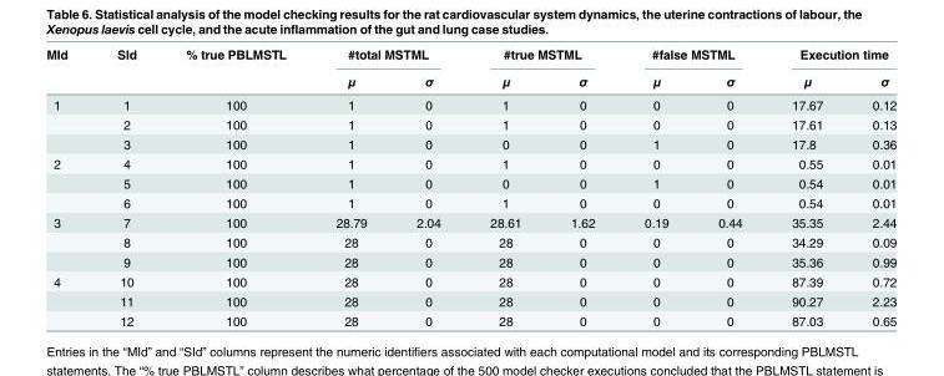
<table><thead><tr><td rowspan="2">MId</td><td rowspan="2">SId</td><td rowspan="2">% true PBLMSTL</td><td colspan="2">#total MSTML</td><td colspan="2">#true MSTML</td><td colspan="2">#false MSTML</td><td colspan="2">Execution time</td></tr><tr><td>μ</td><td>σ</td><td>μ</td><td>σ</td><td>μ</td><td>σ</td><td>μ</td><td>σ</td></tr></thead><tbody><tr><td rowspan="3">1</td><td>1</td><td>100</td><td>1</td><td>0</td><td>1</td><td>0</td><td>0</td><td>0</td><td>17.67</td><td>0.12</td></tr><tr><td>2</td><td>100</td><td>1</td><td>0</td><td>1</td><td>0</td><td>0</td><td>0</td><td>17.61</td><td>0.13</td></tr><tr><td>3</td><td>100</td><td>1</td><td>0</td><td>0</td><td>0</td><td>1</td><td>0</td><td>17.8</td><td>0.36</td></tr><tr><td rowspan="3">2</td><td>4</td><td>100</td><td>1</td><td>0</td><td>1</td><td>0</td><td>0</td><td>0</td><td>0.55</td><td>0.01</td></tr><tr><td>5</td><td>100</td><td>1</td><td>0</td><td>0</td><td>0</td><td>1</td><td>0</td><td>0.54</td><td>0.01</td></tr><tr><td>6</td><td>100</td><td>1</td><td>0</td><td>1</td><td>0</td><td>0</td><td>0</td><td>0.54</td><td>0.01</td></tr><tr><td rowspan="3">3</td><td>7</td><td>100</td><td>28.79</td><td>2.04</td><td>28.61</td><td>1.62</td><td>0.19</td><td>0.44</td><td>35.35</td><td>2.44</td></tr><tr><td>8</td><td>100</td><td>28</td><td>0</td><td>28</td><td>0</td><td>0</td><td>0</td><td>34.29</td><td>0.09</td></tr><tr><td>9</td><td>100</td><td>28</td><td>0</td><td>28</td><td>0</td><td>0</td><td>0</td><td>35.36</td><td>0.99</td></tr><tr><td rowspan="3">4</td><td>10</td><td>100</td><td>28</td><td>0</td><td>28</td><td>0</td><td>0</td><td>0</td><td>87.39</td><td>0.72</td></tr><tr><td>11</td><td>100</td><td>28</td><td>0</td><td>28</td><td>0</td><td>0</td><td>0</td><td>90.27</td><td>2.23</td></tr><tr><td>12</td><td>100</td><td>28</td><td>0</td><td>28</td><td>0</td><td>0</td><td>0</td><td>87.03</td><td>0.65</td></tr></tbody></table>